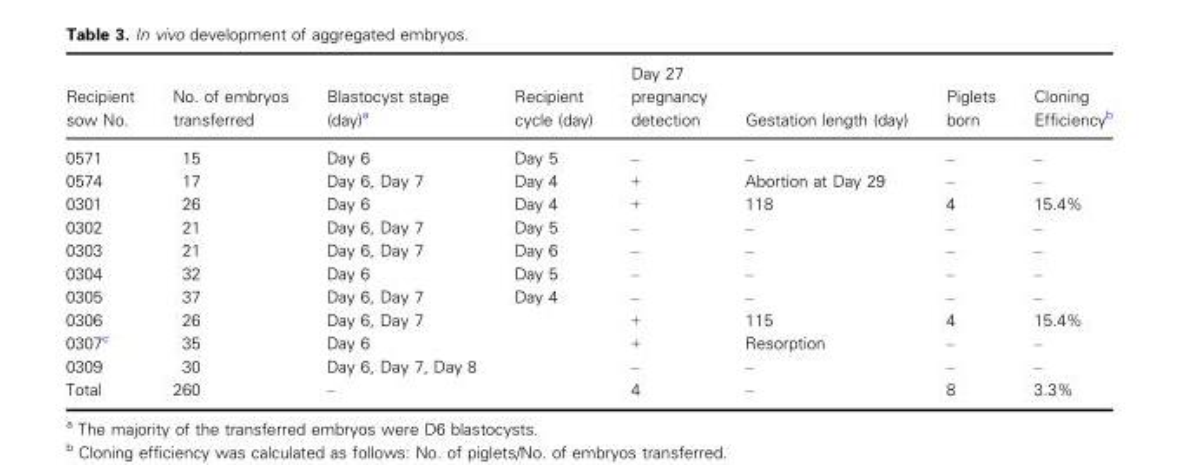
<table><thead><tr><td>Recipient sow No.</td><td>No. of embryos transferred</td><td>Blastocyst stage (day)a</td><td>Recipient cycle (day)</td><td>Day 27 pregnancy detection</td><td>Gestation length (day)</td><td>Piglets born</td><td>Cloning Efficiency<sup>b</sup></td></tr></thead><tbody><tr><td>0571</td><td>15</td><td>Day 6</td><td>Day 5</td><td>–</td><td>–</td><td>–</td><td>–</td></tr><tr><td>0574</td><td>17</td><td>Day 6, Day 7</td><td>Day 4</td><td>+</td><td>Abortion at Day 29</td><td>–</td><td>–</td></tr><tr><td>0301</td><td>26</td><td>Day 6</td><td>Day 4</td><td>+</td><td>118</td><td>4</td><td>15.4%</td></tr><tr><td>0302</td><td>21</td><td>Day 6, Day 7</td><td>Day 5</td><td>–</td><td>–</td><td>–</td><td>–</td></tr><tr><td>0303</td><td>21</td><td>Day 6, Day 7</td><td>Day 6</td><td>–</td><td>–</td><td>–</td><td>–</td></tr><tr><td>0304</td><td>32</td><td>Day 6</td><td>Day 5</td><td>–</td><td>–</td><td>–</td><td>–</td></tr><tr><td>0305</td><td>37</td><td>Day 6, Day 7</td><td>Day 4</td><td>–</td><td>–</td><td>–</td><td>–</td></tr><tr><td>0306</td><td>26</td><td>Day 6, Day 7</td><td></td><td>+</td><td>115</td><td>4</td><td>15.4%</td></tr><tr><td>0307c</td><td>35</td><td>Day 6</td><td></td><td>+</td><td>Resorption</td><td>–</td><td>–</td></tr><tr><td>0309</td><td>30</td><td>Day 6, Day 7, Day 8</td><td></td><td>–</td><td>–</td><td>–</td><td>–</td></tr><tr><td>Total</td><td>260</td><td>–</td><td></td><td>4</td><td>–</td><td>8</td><td>3.3%</td></tr></tbody></table>